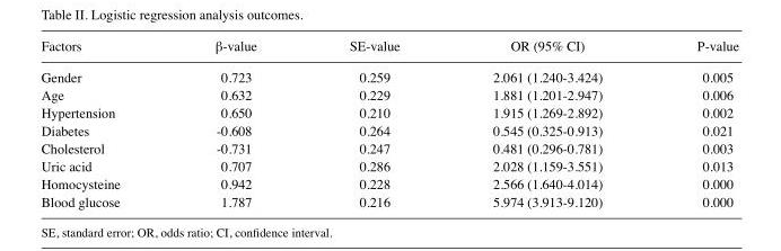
<table><thead><tr><td>Factors</td><td>β-value</td><td>SE-value</td><td>OR (95% CI)</td><td>P-value</td></tr></thead><tbody><tr><td>Gender</td><td>0.723</td><td>0.259</td><td>2.061 (1.240-3.424)</td><td>0.005</td></tr><tr><td>Age</td><td>0.632</td><td>0.229</td><td>1.881 (1.201-2.947)</td><td>0.006</td></tr><tr><td>Hypertension</td><td>0.650</td><td>0.210</td><td>1.915 (1.269-2.892)</td><td>0.002</td></tr><tr><td>Diabetes</td><td>-0.608</td><td>0.264</td><td>0.545 (0.325-0.913)</td><td>0.021</td></tr><tr><td>Cholesterol</td><td>-0.731</td><td>0.247</td><td>0.481 (0.296-0.781)</td><td>0.003</td></tr><tr><td>Uric acid</td><td>0.707</td><td>0.286</td><td>2.028 (1.159-3.551)</td><td>0.013</td></tr><tr><td>Homocysteine</td><td>0.942</td><td>0.228</td><td>2.566 (1.640-4.014)</td><td>0.000</td></tr><tr><td>Blood glucose</td><td>1.787</td><td>0.216</td><td>5.974 (3.913-9.120)</td><td>0.000</td></tr></tbody></table>